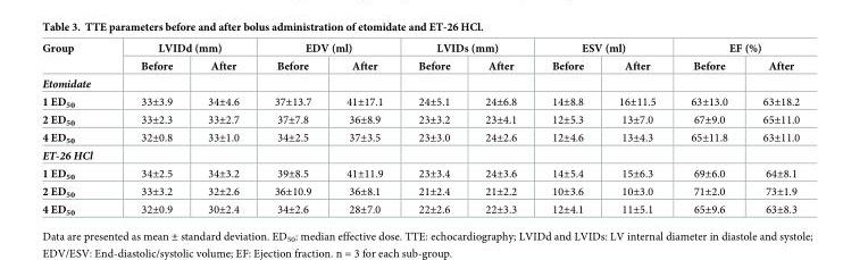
<table><thead><tr><td rowspan="2">Group</td><td colspan="2">LVIDd (mm)</td><td colspan="2">EDV (ml)</td><td colspan="2">LVIDs (mm)</td><td colspan="2">ESV (ml)</td><td colspan="2">EF (%)</td></tr><tr><td>Before</td><td>After</td><td>Before</td><td>After</td><td>Before</td><td>After</td><td>Before</td><td>After</td><td>Before</td><td>After</td></tr></thead><tbody><tr><td colspan="11">Etomidate</td></tr><tr><td>1 ED<sub>50</sub></td><td>33±3.9</td><td>34±4.6</td><td>37±13.7</td><td>41±17.1</td><td>24±5.1</td><td>24±6.8</td><td>14±8.8</td><td>16±11.5</td><td>63±13.0</td><td>63±18.2</td></tr><tr><td>2 ED<sub>50</sub></td><td>33±2.3</td><td>33±2.7</td><td>37±7.8</td><td>36±8.9</td><td>23±3.2</td><td>23±4.1</td><td>12±5.3</td><td>13±7.0</td><td>67±9.0</td><td>65±11.0</td></tr><tr><td>4 ED<sub>50</sub></td><td>32±0.8</td><td>33±1.0</td><td>34±2.5</td><td>37±3.5</td><td>23±3.0</td><td>24±2.6</td><td>12±4.6</td><td>13±4.3</td><td>65±11.8</td><td>63±11.0</td></tr><tr><td colspan="11">ET-26 HCl</td></tr><tr><td>1 ED<sub>50</sub></td><td>34±2.5</td><td>34±3.2</td><td>39±8.5</td><td>41±11.9</td><td>23±3.4</td><td>24±3.6</td><td>14±5.4</td><td>15±6.3</td><td>69±6.0</td><td>64±8.1</td></tr><tr><td>2 ED<sub>50</sub></td><td>33±3.2</td><td>32±2.6</td><td>36±10.9</td><td>36±8.1</td><td>21±2.4</td><td>21±2.2</td><td>10±3.6</td><td>10±3.0</td><td>71±2.0</td><td>73±1.9</td></tr><tr><td>4 ED<sub>50</sub></td><td>32±0.9</td><td>30±2.4</td><td>34±2.6</td><td>28±7.0</td><td>22±2.6</td><td>22±3.3</td><td>12±4.1</td><td>11±5.1</td><td>65±9.6</td><td>63±8.3</td></tr></tbody></table>